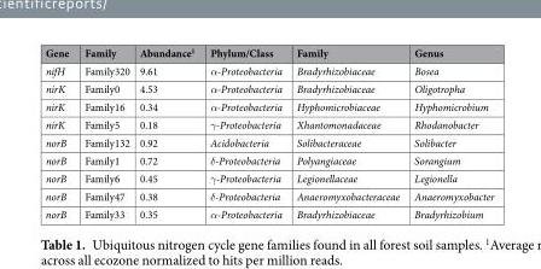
<table><thead><tr><td>Gene</td><td>Family</td><td>Abundance<sup>1</sup></td><td>Phylum/Class</td><td>Family</td><td>Genus</td></tr></thead><tbody><tr><td>nifH</td><td>Family320</td><td>9.61</td><td>α-Proteobacteria</td><td>Bradyrhizobiaceae</td><td>Bosea</td></tr><tr><td>nirK</td><td>Family0</td><td>4.53</td><td>α-Proteobacteria</td><td>Bradyrhizobiaceae</td><td>Oligotropha</td></tr><tr><td>nirK</td><td>Family16</td><td>0.34</td><td>α-Proteobacteria</td><td>Hyphomicrobiaceae</td><td>Hyphomicrobium</td></tr><tr><td>nirK</td><td>Family5</td><td>0.18</td><td>γ-Proteobacteria</td><td>Xhantomonadaceae</td><td>Rhodanobacter</td></tr><tr><td>norB</td><td>Family132</td><td>0.92</td><td>Acidobacteria</td><td>Solibacteraceae</td><td>Solibacter</td></tr><tr><td>norB</td><td>Family1</td><td>0.72</td><td>δ-Proteobacteria</td><td>Polyangiaceae</td><td>Sorangium</td></tr><tr><td>norB</td><td>Family6</td><td>0.45</td><td>γ-Proteobacteria</td><td>Legionellaceae</td><td>Legionella</td></tr><tr><td>norB</td><td>Family47</td><td>0.38</td><td>δ-Proteobacteria</td><td>Anaeromyxobacteraceae</td><td>Anaeromyxobacter</td></tr><tr><td>norB</td><td>Family33</td><td>0.35</td><td>α-Proteobacteria</td><td>Bradyrhizobiaceae</td><td>Bradyrhizobium</td></tr></tbody></table>